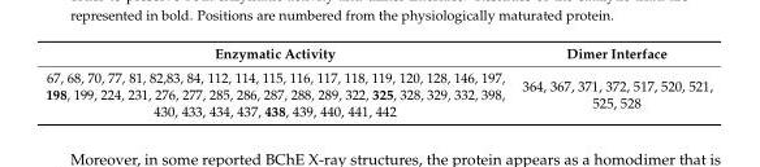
<table><thead><tr><td>Enzymatic Activity</td><td>Dimer Interface</td></tr></thead><tbody><tr><td>67, 68, 70, 77, 81, 82,83, 84, 112, 114, 115, 116, 117, 118, 119, 120, 128, 146, 197, 198, 199, 224, 231, 276, 277, 285, 286, 287, 288, 289, 322, 325, 328, 329, 332, 398, 430, 433, 434, 437, 438, 439, 440, 441, 442</td><td>364, 367, 371, 372, 517, 520, 521, 525, 528</td></tr></tbody></table>